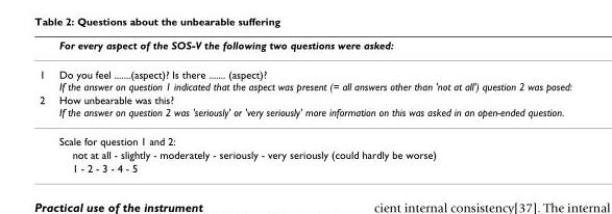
<table><thead><tr><td></td><td>For every aspect of the SOS-V the following two questions were asked:</td></tr></thead><tbody><tr><td>1</td><td>Do you feel .......(aspect)? Is there ....... (aspect)? If the answer on question 1 indicated that the aspect was present (= all answers other than &#x27;not at all&#x27;) question 2 was posed:</td></tr><tr><td rowspan="4">2</td><td>How unbearable was this? If the answer on question 2 was &#x27;seriously&#x27; or &#x27;very seriously&#x27; more information on this was asked in an open-ended question.</td></tr><tr><td>Scale for question 1 and 2:</td></tr><tr><td>not at all - slightly - moderately - seriously - very seriously (could hardly be worse)</td></tr><tr><td>1 - 2 - 3 - 4 - 5</td></tr></tbody></table>